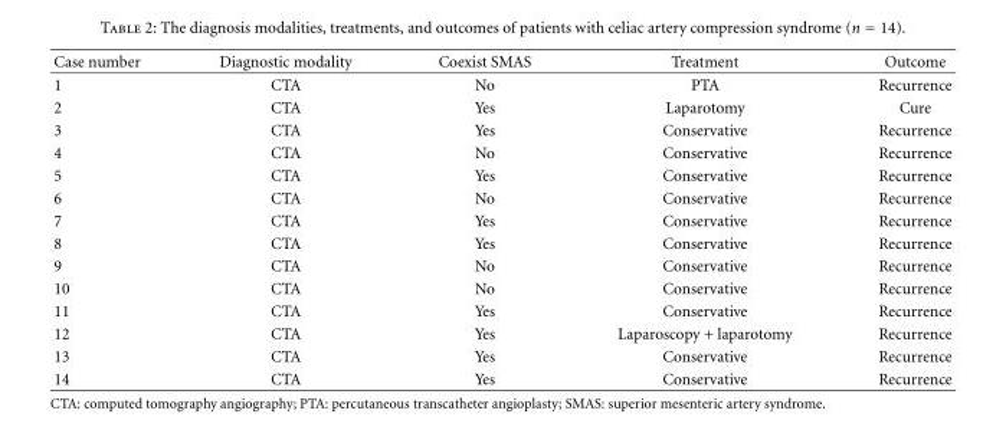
<table><thead><tr><td>Case number</td><td>Diagnostic modality</td><td>Coexist SMAS</td><td>Treatment</td><td>Outcome</td></tr></thead><tbody><tr><td>1</td><td>CTA</td><td>No</td><td>PTA</td><td>Recurrence</td></tr><tr><td>2</td><td>CTA</td><td>Yes</td><td>Laparotomy</td><td>Cure</td></tr><tr><td>3</td><td>CTA</td><td>Yes</td><td>Conservative</td><td>Recurrence</td></tr><tr><td>4</td><td>CTA</td><td>No</td><td>Conservative</td><td>Recurrence</td></tr><tr><td>5</td><td>CTA</td><td>Yes</td><td>Conservative</td><td>Recurrence</td></tr><tr><td>6</td><td>CTA</td><td>No</td><td>Conservative</td><td>Recurrence</td></tr><tr><td>7</td><td>CTA</td><td>Yes</td><td>Conservative</td><td>Recurrence</td></tr><tr><td>8</td><td>CTA</td><td>Yes</td><td>Conservative</td><td>Recurrence</td></tr><tr><td>9</td><td>CTA</td><td>No</td><td>Conservative</td><td>Recurrence</td></tr><tr><td>10</td><td>CTA</td><td>No</td><td>Conservative</td><td>Recurrence</td></tr><tr><td>11</td><td>CTA</td><td>Yes</td><td>Conservative</td><td>Recurrence</td></tr><tr><td>12</td><td>CTA</td><td>Yes</td><td>Laparoscopy + laparotomy</td><td>Recurrence</td></tr><tr><td>13</td><td>CTA</td><td>Yes</td><td>Conservative</td><td>Recurrence</td></tr><tr><td>14</td><td>CTA</td><td>Yes</td><td>Conservative</td><td>Recurrence</td></tr></tbody></table>